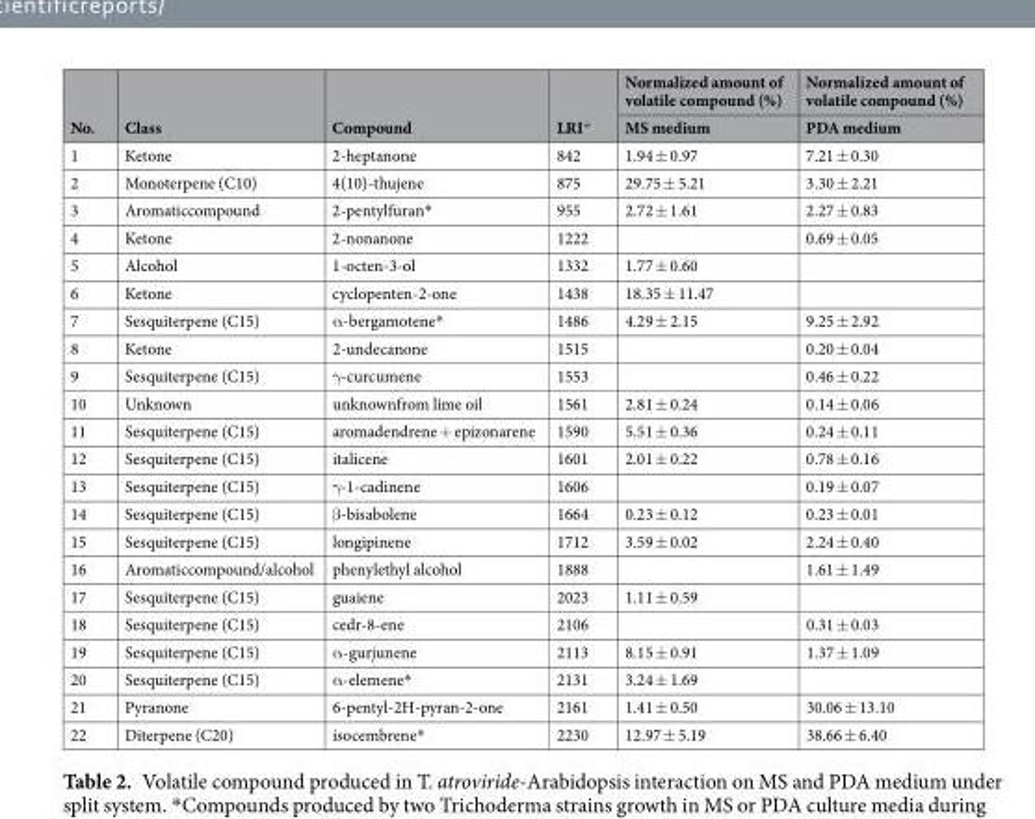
<table><thead><tr><td rowspan="2">No.</td><td rowspan="2">Class</td><td rowspan="2">Compound</td><td rowspan="2">LRI<sup>+</sup></td><td rowspan="2">Normalized amount of volatile compound (%) MS medium</td><td rowspan="2">Normalized amount of volatile compound (%) PDA medium</td></tr><tr></tr></thead><tbody><tr><td>1</td><td>Ketone</td><td>2-heptanone</td><td>842</td><td>1.94 ± 0.97</td><td>7.21 ± 0.30</td></tr><tr><td>2</td><td>Monoterpene (C10)</td><td>4(10)-thujene</td><td>875</td><td>29.75 ± 5.21</td><td>3.30 ± 2.21</td></tr><tr><td>3</td><td>Aromaticcompound</td><td>2-pentylfuran*</td><td>955</td><td>2.72 ± 1.61</td><td>2.27 ± 0.83</td></tr><tr><td>4</td><td>Ketone</td><td>2-nonanone</td><td>1222</td><td></td><td>0.69 ± 0.05</td></tr><tr><td>5</td><td>Alcohol</td><td>1-octen-3-ol</td><td>1332</td><td>1.77 ± 0.60</td><td></td></tr><tr><td>6</td><td>Ketone</td><td>cyclopenten-2-one</td><td>1438</td><td>18.35 ± 11.47</td><td></td></tr><tr><td>7</td><td>Sesquiterpene (C15)</td><td>α-bergamotene*</td><td>1486</td><td>4.29 ± 2.15</td><td>9.25 ± 2.92</td></tr><tr><td>8</td><td>Ketone</td><td>2-undecanone</td><td>1515</td><td></td><td>0.20 ± 0.04</td></tr><tr><td>9</td><td>Sesquiterpene (C15)</td><td>γ-curcumene</td><td>1553</td><td></td><td>0.46 ± 0.22</td></tr><tr><td>10</td><td>Unknown</td><td>unknownfrom lime oil</td><td>1561</td><td>2.81 ± 0.24</td><td>0.14 ± 0.06</td></tr><tr><td>11</td><td>Sesquiterpene (C15)</td><td>aromadendrene + epizonarene</td><td>1590</td><td>5.51 ± 0.36</td><td>0.24 ± 0.11</td></tr><tr><td>12</td><td>Sesquiterpene (C15)</td><td>italicene</td><td>1601</td><td>2.01 ± 0.22</td><td>0.78 ± 0.16</td></tr><tr><td>13</td><td>Sesquiterpene (C15)</td><td>γ-1-cadinene</td><td>1606</td><td></td><td>0.19 ± 0.07</td></tr><tr><td>14</td><td>Sesquiterpene (C15)</td><td>β-bisabolene</td><td>1664</td><td>0.23 ± 0.12</td><td>0.23 ± 0.01</td></tr><tr><td>15</td><td>Sesquiterpene (C15)</td><td>longipinene</td><td>1712</td><td>3.59 ± 0.02</td><td>2.24 ± 0.40</td></tr><tr><td>16</td><td>Aromaticcompound/alcohol</td><td>phenylethyl alcohol</td><td>1888</td><td></td><td>1.61 ± 1.49</td></tr><tr><td>17</td><td>Sesquiterpene (C15)</td><td>guaiene</td><td>2023</td><td>1.11 ± 0.59</td><td></td></tr><tr><td>18</td><td>Sesquiterpene (C15)</td><td>cedr-8-ene</td><td>2106</td><td></td><td>0.31 ± 0.03</td></tr><tr><td>19</td><td>Sesquiterpene (C15)</td><td>α-gurjunene</td><td>2113</td><td>8.15 ± 0.91</td><td>1.37 ± 1.09</td></tr><tr><td>20</td><td>Sesquiterpene (C15)</td><td>α-elemene*</td><td>2131</td><td>3.24 ± 1.69</td><td></td></tr><tr><td>21</td><td>Pyranone</td><td>6-pentyl-2H-pyran-2-one</td><td>2161</td><td>1.41 ± 0.50</td><td>30.06 ± 13.10</td></tr><tr><td>22</td><td>Diterpene (C20)</td><td>isocembrene*</td><td>2230</td><td>12.97 ± 5.19</td><td>38.66 ± 6.40</td></tr></tbody></table>